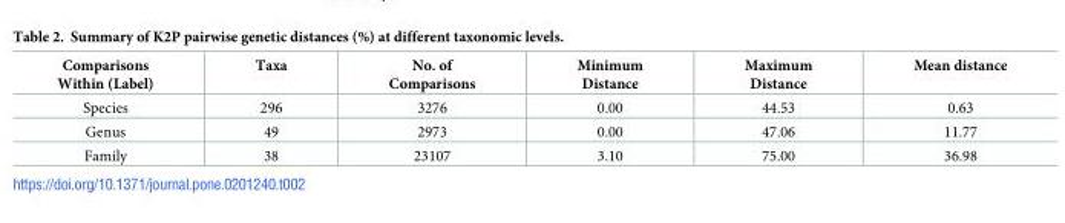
<table><thead><tr><td>Comparisons Within (Label)</td><td>Taxa</td><td>No. of Comparisons</td><td>Minimum Distance</td><td>Maximum Distance</td><td>Mean distance</td></tr></thead><tbody><tr><td>Species</td><td>296</td><td>3276</td><td>0.00</td><td>44.53</td><td>0.63</td></tr><tr><td>Genus</td><td>49</td><td>2973</td><td>0.00</td><td>47.06</td><td>11.77</td></tr><tr><td>Family</td><td>38</td><td>23107</td><td>3.10</td><td>75.00</td><td>36.98</td></tr></tbody></table>